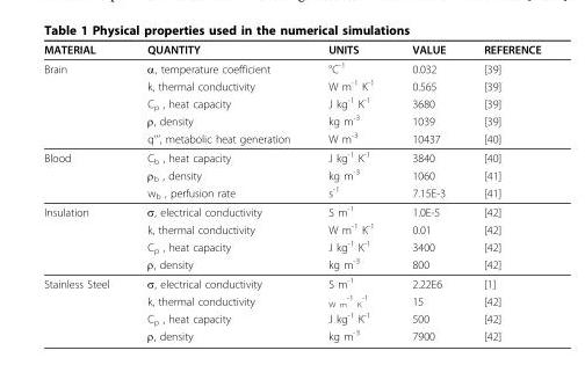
<table><thead><tr><td>MATERIAL</td><td>QUANTITY</td><td>UNITS</td><td>VALUE</td><td>REFERENCE</td></tr></thead><tbody><tr><td rowspan="5">Brain</td><td>α, temperature coefficient</td><td>°C<sup>-1</sup></td><td>0.032</td><td>[39]</td></tr><tr><td>k, thermal conductivity</td><td>W m<sup>-1</sup> K<sup>-1</sup></td><td>0.565</td><td>[39]</td></tr><tr><td>C<sub>p</sub> , heat capacity</td><td>J kg<sup>-1</sup> K<sup>-1</sup></td><td>3680</td><td>[39]</td></tr><tr><td>ρ, density</td><td>kg m<sup>-3</sup></td><td>1039</td><td>[39]</td></tr><tr><td>q’’’, metabolic heat generation</td><td>W m<sup>-3</sup></td><td>10437</td><td>[40]</td></tr><tr><td rowspan="3">Blood</td><td>C<sub>b</sub> , heat capacity</td><td>J kg<sup>-1</sup> K<sup>-1</sup></td><td>3840</td><td>[40]</td></tr><tr><td>ρ<sub>b</sub> , density</td><td>kg m<sup>-3</sup></td><td>1060</td><td>[41]</td></tr><tr><td>w<sub>b</sub> , perfusion rate</td><td>s<sup>-1</sup></td><td>7.15E-3</td><td>[41]</td></tr><tr><td rowspan="4">Insulation</td><td>σ, electrical conductivity</td><td>S m<sup>-1</sup></td><td>1.0E-5</td><td>[42]</td></tr><tr><td>k, thermal conductivity</td><td>W m<sup>-1</sup> K<sup>-1</sup></td><td>0.01</td><td>[42]</td></tr><tr><td>C<sub>p</sub> , heat capacity</td><td>J kg<sup>-1</sup> K<sup>-1</sup></td><td>3400</td><td>[42]</td></tr><tr><td>ρ, density</td><td>kg m<sup>-3</sup></td><td>800</td><td>[42]</td></tr><tr><td rowspan="4">Stainless Steel</td><td>σ, electrical conductivity</td><td>S m<sup>-1</sup></td><td>2.22E6</td><td>[1]</td></tr><tr><td>k, thermal conductivity</td><td><sub>W m</sub> <sup>-1</sup> <sub>K</sub> <sup>-1</sup></td><td>15</td><td>[42]</td></tr><tr><td>C<sub>p</sub> , heat capacity</td><td>J kg<sup>-1</sup> K<sup>-1</sup></td><td>500</td><td>[42]</td></tr><tr><td>ρ, density</td><td>kg m<sup>-3</sup></td><td>7900</td><td>[42]</td></tr></tbody></table>